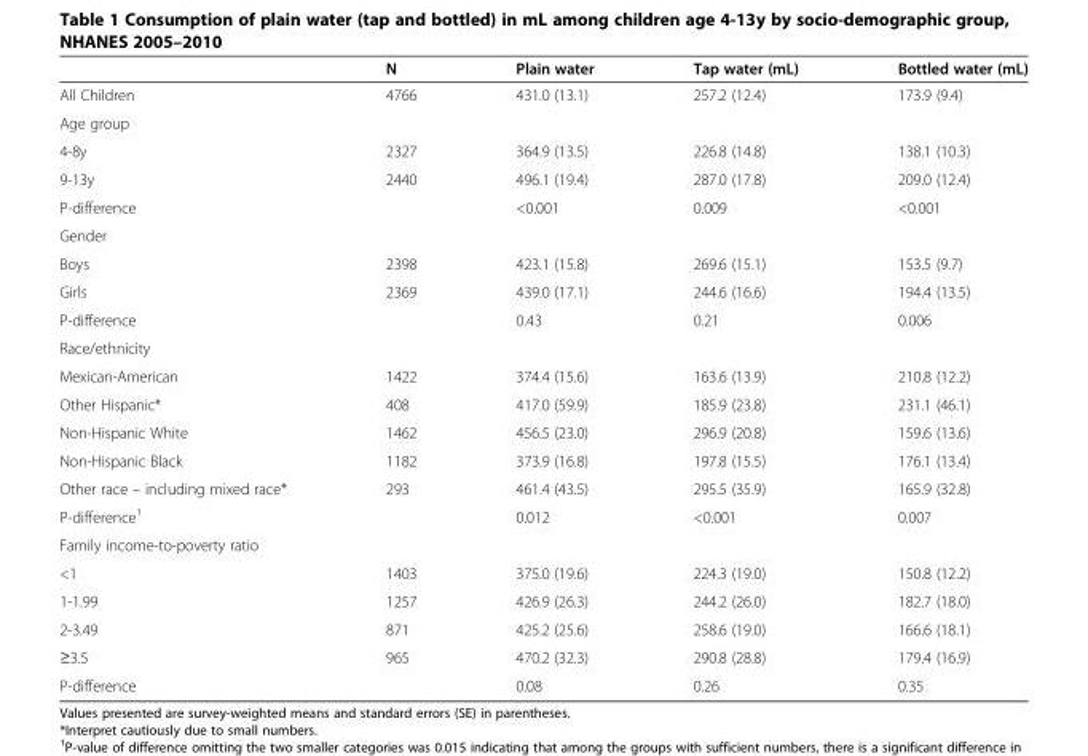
<table><thead><tr><td></td><td>N</td><td>Plain water</td><td>Tap water (mL)</td><td>Bottled water (mL)</td></tr></thead><tbody><tr><td>All Children</td><td>4766</td><td>431.0 (13.1)</td><td>257.2 (12.4)</td><td>173.9 (9.4)</td></tr><tr><td colspan="5">Age group</td></tr><tr><td>4-8y</td><td>2327</td><td>364.9 (13.5)</td><td>226.8 (14.8)</td><td>138.1 (10.3)</td></tr><tr><td>9-13y</td><td>2440</td><td>496.1 (19.4)</td><td>287.0 (17.8)</td><td>209.0 (12.4)</td></tr><tr><td>P-difference</td><td></td><td>&lt;0.001</td><td>0.009</td><td>&lt;0.001</td></tr><tr><td colspan="5">Gender</td></tr><tr><td>Boys</td><td>2398</td><td>423.1 (15.8)</td><td>269.6 (15.1)</td><td>153.5 (9.7)</td></tr><tr><td>Girls</td><td>2369</td><td>439.0 (17.1)</td><td>244.6 (16.6)</td><td>194.4 (13.5)</td></tr><tr><td>P-difference</td><td></td><td>0.43</td><td>0.21</td><td>0.006</td></tr><tr><td colspan="5">Race/ethnicity</td></tr><tr><td>Mexican-American</td><td>1422</td><td>374.4 (15.6)</td><td>163.6 (13.9)</td><td>210.8 (12.2)</td></tr><tr><td>Other Hispanic*</td><td>408</td><td>417.0 (59.9)</td><td>185.9 (23.8)</td><td>231.1 (46.1)</td></tr><tr><td>Non-Hispanic White</td><td>1462</td><td>456.5 (23.0)</td><td>296.9 (20.8)</td><td>159.6 (13.6)</td></tr><tr><td>Non-Hispanic Black</td><td>1182</td><td>373.9 (16.8)</td><td>197.8 (15.5)</td><td>176.1 (13.4)</td></tr><tr><td>Other race – including mixed race*</td><td>293</td><td>461.4 (43.5)</td><td>295.5 (35.9)</td><td>165.9 (32.8)</td></tr><tr><td>P-difference<sup>1</sup></td><td></td><td>0.012</td><td>&lt;0.001</td><td>0.007</td></tr><tr><td colspan="5">Family income-to-poverty ratio</td></tr><tr><td>&lt;1</td><td>1403</td><td>375.0 (19.6)</td><td>224.3 (19.0)</td><td>150.8 (12.2)</td></tr><tr><td>1-1.99</td><td>1257</td><td>426.9 (26.3)</td><td>244.2 (26.0)</td><td>182.7 (18.0)</td></tr><tr><td>2-3.49</td><td>871</td><td>425.2 (25.6)</td><td>258.6 (19.0)</td><td>166.6 (18.1)</td></tr><tr><td>≥3.5</td><td>965</td><td>470.2 (32.3)</td><td>290.8 (28.8)</td><td>179.4 (16.9)</td></tr><tr><td>P-difference</td><td></td><td>0.08</td><td>0.26</td><td>0.35</td></tr></tbody></table>